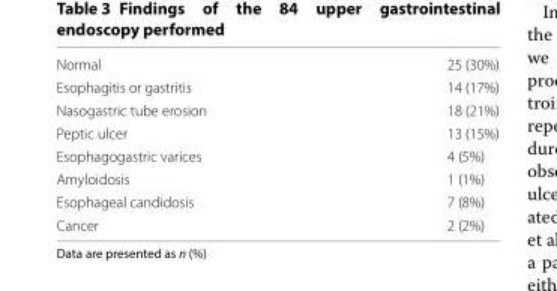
<table><tbody><tr><td>Normal</td><td>25 (30%)</td></tr><tr><td>Esophagitis or gastritis</td><td>14 (17%)</td></tr><tr><td>Nasogastric tube erosion</td><td>18 (21%)</td></tr><tr><td>Peptic ulcer</td><td>13 (15%)</td></tr><tr><td>Esophagogastric varices</td><td>4 (5%)</td></tr><tr><td>Amyloidosis</td><td>1 (1%)</td></tr><tr><td>Esophageal candidosis</td><td>7 (8%)</td></tr><tr><td>Cancer</td><td>2 (2%)</td></tr></tbody></table>